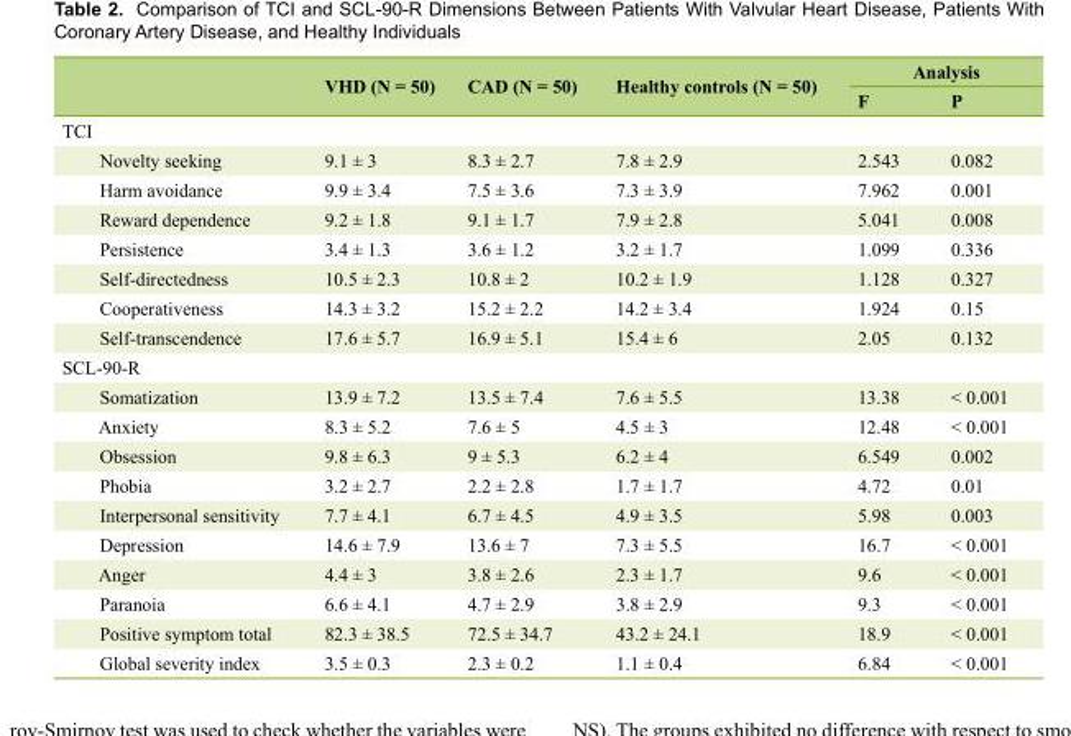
<table><thead><tr><td rowspan="2"></td><td rowspan="2">VHD (N = 50)</td><td rowspan="2">CAD (N = 50)</td><td rowspan="2">Healthy controls (N = 50)</td><td colspan="2">Analysis</td></tr><tr><td>F</td><td>P</td></tr></thead><tbody><tr><td colspan="6">TCI</td></tr><tr><td>Novelty seeking</td><td>9.1 ± 3</td><td>8.3 ± 2.7</td><td>7.8 ± 2.9</td><td>2.543</td><td>0.082</td></tr><tr><td>Harm avoidance</td><td>9.9 ± 3.4</td><td>7.5 ± 3.6</td><td>7.3 ± 3.9</td><td>7.962</td><td>0.001</td></tr><tr><td>Reward dependence</td><td>9.2 ± 1.8</td><td>9.1 ± 1.7</td><td>7.9 ± 2.8</td><td>5.041</td><td>0.008</td></tr><tr><td>Persistence</td><td>3.4 ± 1.3</td><td>3.6 ± 1.2</td><td>3.2 ± 1.7</td><td>1.099</td><td>0.336</td></tr><tr><td>Self-directedness</td><td>10.5 ± 2.3</td><td>10.8 ± 2</td><td>10.2 ± 1.9</td><td>1.128</td><td>0.327</td></tr><tr><td>Cooperativeness</td><td>14.3 ± 3.2</td><td>15.2 ± 2.2</td><td>14.2 ± 3.4</td><td>1.924</td><td>0.15</td></tr><tr><td>Self-transcendence</td><td>17.6 ± 5.7</td><td>16.9 ± 5.1</td><td>15.4 ± 6</td><td>2.05</td><td>0.132</td></tr><tr><td colspan="6">SCL-90-R</td></tr><tr><td>Somatization</td><td>13.9 ± 7.2</td><td>13.5 ± 7.4</td><td>7.6 ± 5.5</td><td>13.38</td><td>&lt; 0.001</td></tr><tr><td>Anxiety</td><td>8.3 ± 5.2</td><td>7.6 ± 5</td><td>4.5 ± 3</td><td>12.48</td><td>&lt; 0.001</td></tr><tr><td>Obsession</td><td>9.8 ± 6.3</td><td>9 ± 5.3</td><td>6.2 ± 4</td><td>6.549</td><td>0.002</td></tr><tr><td>Phobia</td><td>3.2 ± 2.7</td><td>2.2 ± 2.8</td><td>1.7 ± 1.7</td><td>4.72</td><td>0.01</td></tr><tr><td>Interpersonal sensitivity</td><td>7.7 ± 4.1</td><td>6.7 ± 4.5</td><td>4.9 ± 3.5</td><td>5.98</td><td>0.003</td></tr><tr><td>Depression</td><td>14.6 ± 7.9</td><td>13.6 ± 7</td><td>7.3 ± 5.5</td><td>16.7</td><td>&lt; 0.001</td></tr><tr><td>Anger</td><td>4.4 ± 3</td><td>3.8 ± 2.6</td><td>2.3 ± 1.7</td><td>9.6</td><td>&lt; 0.001</td></tr><tr><td>Paranoia</td><td>6.6 ± 4.1</td><td>4.7 ± 2.9</td><td>3.8 ± 2.9</td><td>9.3</td><td>&lt; 0.001</td></tr><tr><td>Positive symptom total</td><td>82.3 ± 38.5</td><td>72.5 ± 34.7</td><td>43.2 ± 24.1</td><td>18.9</td><td>&lt; 0.001</td></tr><tr><td>Global severity index</td><td>3.5 ± 0.3</td><td>2.3 ± 0.2</td><td>1.1 ± 0.4</td><td>6.84</td><td>&lt; 0.001</td></tr></tbody></table>